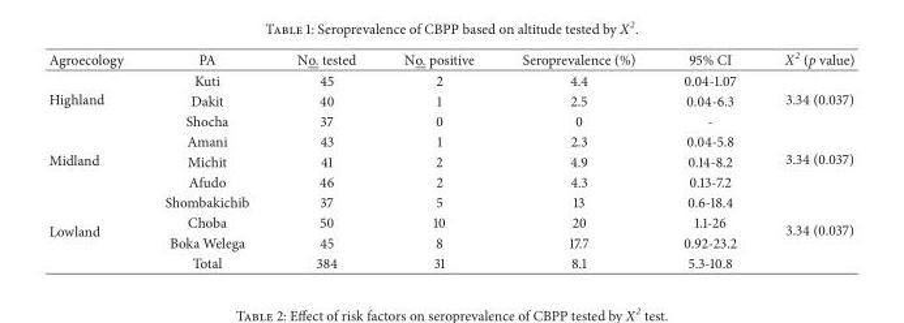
<table><thead><tr><td>Agroecology</td><td>PA</td><td>No. tested</td><td>No. positive</td><td>Seroprevalence (%)</td><td>95% CI</td><td>X<sup>2</sup> (p value)</td></tr></thead><tbody><tr><td rowspan="3">Highland</td><td>Kuti</td><td>45</td><td>2</td><td>4.4</td><td>0.04-1.07</td><td rowspan="3">3.34 (0.037)</td></tr><tr><td>Dakit</td><td>40</td><td>1</td><td>2.5</td><td>0.04-6.3</td></tr><tr><td>Shocha</td><td>37</td><td>0</td><td>0</td><td>-</td></tr><tr><td rowspan="3">Midland</td><td>Amani</td><td>43</td><td>1</td><td>2.3</td><td>0.04-5.8</td><td rowspan="4">3.34 (0.037)</td></tr><tr><td>Michit</td><td>41</td><td>2</td><td>4.9</td><td>0.14-8.2</td></tr><tr><td>Afudo</td><td>46</td><td>2</td><td>4.3</td><td>0.13-7.2</td></tr><tr><td rowspan="4">Lowland</td><td>Shombakichib</td><td>37</td><td>5</td><td>13</td><td>0.6-18.4</td></tr><tr><td>Choba</td><td>50</td><td>10</td><td>20</td><td>1.1-26</td><td rowspan="3">3.34 (0.037)</td></tr><tr><td>Boka Welega</td><td>45</td><td>8</td><td>17.7</td><td>0.92-23.2</td></tr><tr><td>Total</td><td>384</td><td>31</td><td>8.1</td><td>5.3-10.8</td></tr></tbody></table>